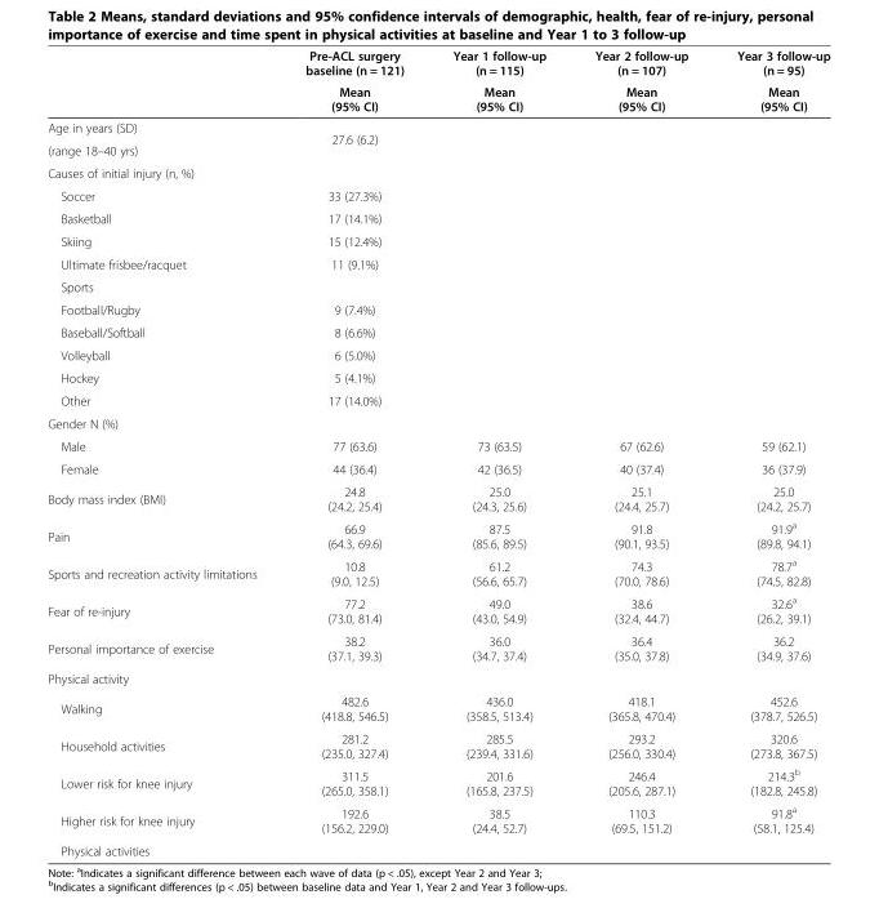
<table><thead><tr><td rowspan="2"></td><td rowspan="2">Pre-ACL surgery baseline (n = 121) Mean (95% CI)</td><td rowspan="2">Year 1 follow-up (n = 115) Mean (95% CI)</td><td rowspan="2">Year 2 follow-up (n = 107) Mean (95% CI)</td><td rowspan="2">Year 3 follow-up (n = 95) Mean (95% CI)</td></tr><tr></tr></thead><tbody><tr><td>Age in years (SD)</td><td rowspan="2">27.6 (6.2)</td><td rowspan="2"></td><td rowspan="2"></td><td rowspan="2"></td></tr><tr><td>(range 18–40 yrs)</td></tr><tr><td colspan="5">Causes of initial injury (n, %)</td></tr><tr><td>Soccer</td><td>33 (27.3%)</td><td></td><td></td><td></td></tr><tr><td>Basketball</td><td>17 (14.1%)</td><td></td><td></td><td></td></tr><tr><td>Skiing</td><td>15 (12.4%)</td><td></td><td></td><td></td></tr><tr><td>Ultimate frisbee/racquet</td><td>11 (9.1%)</td><td></td><td></td><td></td></tr><tr><td colspan="5">Sports</td></tr><tr><td>Football/Rugby</td><td>9 (7.4%)</td><td></td><td></td><td></td></tr><tr><td>Baseball/Softball</td><td>8 (6.6%)</td><td></td><td></td><td></td></tr><tr><td>Volleyball</td><td>6 (5.0%)</td><td></td><td></td><td></td></tr><tr><td>Hockey</td><td>5 (4.1%)</td><td></td><td></td><td></td></tr><tr><td>Other</td><td>17 (14.0%)</td><td></td><td></td><td></td></tr><tr><td colspan="5">Gender N (%)</td></tr><tr><td>Male</td><td>77 (63.6)</td><td>73 (63.5)</td><td>67 (62.6)</td><td>59 (62.1)</td></tr><tr><td>Female</td><td>44 (36.4)</td><td>42 (36.5)</td><td>40 (37.4)</td><td>36 (37.9)</td></tr><tr><td>Body mass index (BMI)</td><td>24.8 (24.2, 25.4)</td><td>25.0 (24.3, 25.6)</td><td>25.1 (24.4, 25.7)</td><td>25.0 (24.2, 25.7)</td></tr><tr><td>Pain</td><td>66.9 (64.3, 69.6)</td><td>87.5 (85.6, 89.5)</td><td>91.8 (90.1, 93.5)</td><td>91.9<sup>a</sup> (89.8, 94.1)</td></tr><tr><td>Sports and recreation activity limitations</td><td>10.8 (9.0, 12.5)</td><td>61.2 (56.6, 65.7)</td><td>74.3 (70.0, 78.6)</td><td>78.7<sup>a</sup> (74.5, 82.8)</td></tr><tr><td>Fear of re-injury</td><td>77.2 (73.0, 81.4)</td><td>49.0 (43.0, 54.9)</td><td>38.6 (32.4, 44.7)</td><td>32.6<sup>a</sup> (26.2, 39.1)</td></tr><tr><td>Personal importance of exercise</td><td>38.2 (37.1, 39.3)</td><td>36.0 (34.7, 37.4)</td><td>36.4 (35.0, 37.8)</td><td>36.2 (34.9, 37.6)</td></tr><tr><td colspan="5">Physical activity</td></tr><tr><td>Walking</td><td>482.6 (418.8, 546.5)</td><td>436.0 (358.5, 513.4)</td><td>418.1 (365.8, 470.4)</td><td>452.6 (378.7, 526.5)</td></tr><tr><td>Household activities</td><td>281.2 (235.0, 327.4)</td><td>285.5 (239.4, 331.6)</td><td>293.2 (256.0, 330.4)</td><td>320.6 (273.8, 367.5)</td></tr><tr><td>Lower risk for knee injury</td><td>311.5 (265.0, 358.1)</td><td>201.6 (165.8, 237.5)</td><td>246.4 (205.6, 287.1)</td><td>214.3<sup>b</sup> (182.8, 245.8)</td></tr><tr><td>Higher risk for knee injury</td><td>192.6 (156.2, 229.0)</td><td>38.5 (24.4, 52.7)</td><td>110.3 (69.5, 151.2)</td><td>91.8<sup>a</sup> (58.1, 125.4)</td></tr><tr><td colspan="5">Physical activities</td></tr></tbody></table>